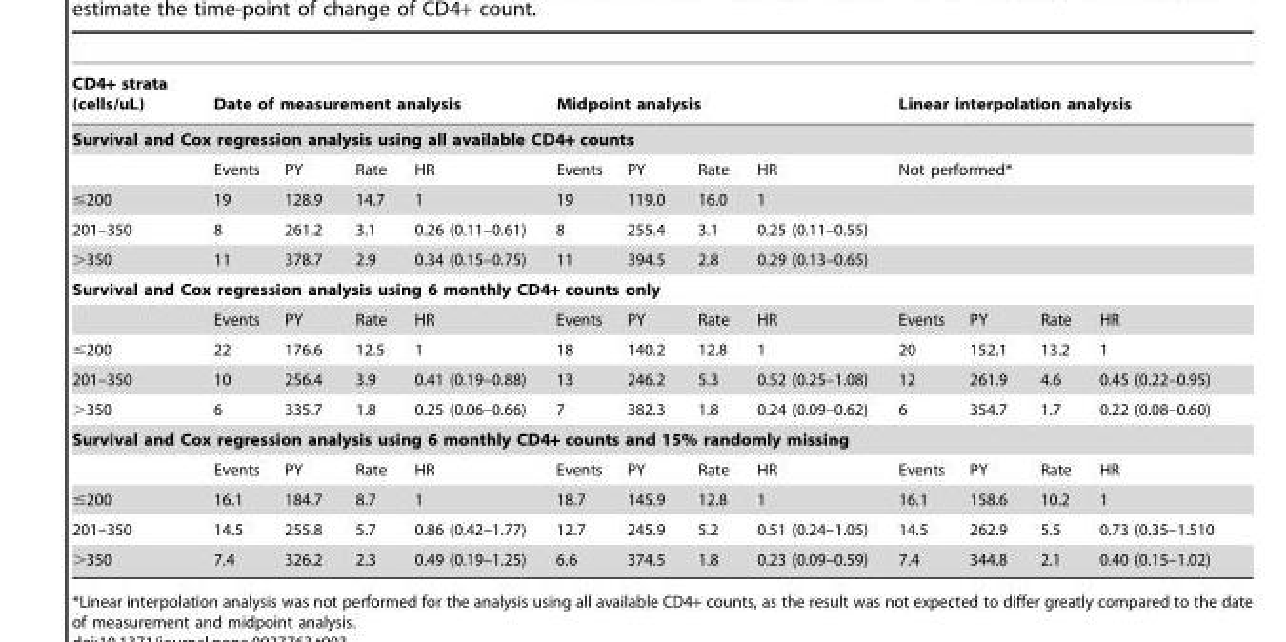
<table><thead><tr><td>CD4+ strata (cells/uL)</td><td colspan="4">Date of measurement analysis</td><td colspan="4">Midpoint analysis</td><td colspan="4">Linear interpolation analysis</td></tr></thead><tbody><tr><td colspan="13">Survival and Cox regression analysis using all available CD4+ counts</td></tr><tr><td></td><td>Events</td><td>PY</td><td>Rate</td><td>HR</td><td>Events</td><td>PY</td><td>Rate</td><td>HR</td><td colspan="4">Not performed*</td></tr><tr><td>≤200</td><td>19</td><td>128.9</td><td>14.7</td><td>1</td><td>19</td><td>119.0</td><td>16.0</td><td>1</td><td colspan="4"></td></tr><tr><td>201–350</td><td>8</td><td>261.2</td><td>3.1</td><td>0.26 (0.11–0.61)</td><td>8</td><td>255.4</td><td>3.1</td><td>0.25 (0.11–0.55)</td><td colspan="4"></td></tr><tr><td>&gt;350</td><td>11</td><td>378.7</td><td>2.9</td><td>0.34 (0.15–0.75)</td><td>11</td><td>394.5</td><td>2.8</td><td>0.29 (0.13–0.65)</td><td colspan="4"></td></tr><tr><td colspan="13">Survival and Cox regression analysis using 6 monthly CD4+ counts only</td></tr><tr><td></td><td>Events</td><td>PY</td><td>Rate</td><td>HR</td><td>Events</td><td>PY</td><td>Rate</td><td>HR</td><td>Events</td><td>PY</td><td>Rate</td><td>HR</td></tr><tr><td>≤200</td><td>22</td><td>176.6</td><td>12.5</td><td>1</td><td>18</td><td>140.2</td><td>12.8</td><td>1</td><td>20</td><td>152.1</td><td>13.2</td><td>1</td></tr><tr><td>201–350</td><td>10</td><td>256.4</td><td>3.9</td><td>0.41 (0.19–0.88)</td><td>13</td><td>246.2</td><td>5.3</td><td>0.52 (0.25–1.08)</td><td>12</td><td>261.9</td><td>4.6</td><td>0.45 (0.22–0.95)</td></tr><tr><td>&gt;350</td><td>6</td><td>335.7</td><td>1.8</td><td>0.25 (0.06–0.66)</td><td>7</td><td>382.3</td><td>1.8</td><td>0.24 (0.09–0.62)</td><td>6</td><td>354.7</td><td>1.7</td><td>0.22 (0.08–0.60)</td></tr><tr><td colspan="13">Survival and Cox regression analysis using 6 monthly CD4+ counts and 15% randomly missing</td></tr><tr><td></td><td>Events</td><td>PY</td><td>Rate</td><td>HR</td><td>Events</td><td>PY</td><td>Rate</td><td>HR</td><td>Events</td><td>PY</td><td>Rate</td><td>HR</td></tr><tr><td>≤200</td><td>16.1</td><td>184.7</td><td>8.7</td><td>1</td><td>18.7</td><td>145.9</td><td>12.8</td><td>1</td><td>16.1</td><td>158.6</td><td>10.2</td><td>1</td></tr><tr><td>201–350</td><td>14.5</td><td>255.8</td><td>5.7</td><td>0.86 (0.42–1.77)</td><td>12.7</td><td>245.9</td><td>5.2</td><td>0.51 (0.24–1.05)</td><td>14.5</td><td>262.9</td><td>5.5</td><td>0.73 (0.35–1.510</td></tr><tr><td>&gt;350</td><td>7.4</td><td>326.2</td><td>2.3</td><td>0.49 (0.19–1.25)</td><td>6.6</td><td>374.5</td><td>1.8</td><td>0.23 (0.09–0.59)</td><td>7.4</td><td>344.8</td><td>2.1</td><td>0.40 (0.15–1.02)</td></tr></tbody></table>